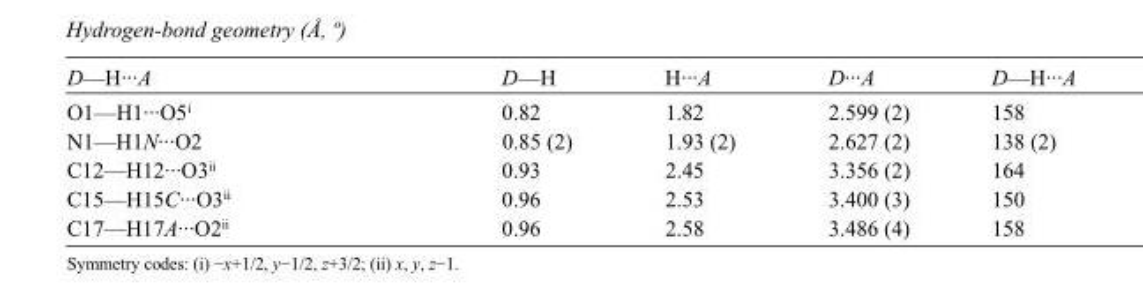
<table><tbody><tr><td>D—H···A</td><td>D—H</td><td>H···A</td><td>D···A</td><td>D—H···A</td></tr><tr><td>O1—H1···O5<sup>i</sup></td><td>0.82</td><td>1.82</td><td>2.599 (2)</td><td>158</td></tr><tr><td>N1—H1N···O2</td><td>0.85 (2)</td><td>1.93 (2)</td><td>2.627 (2)</td><td>138 (2)</td></tr><tr><td>C12—H12···O3<sup>ii</sup></td><td>0.93</td><td>2.45</td><td>3.356 (2)</td><td>164</td></tr><tr><td>C15—H15C···O3<sup>ii</sup></td><td>0.96</td><td>2.53</td><td>3.400 (3)</td><td>150</td></tr><tr><td>C17—H17A···O2<sup>ii</sup></td><td>0.96</td><td>2.58</td><td>3.486 (4)</td><td>158</td></tr></tbody></table>